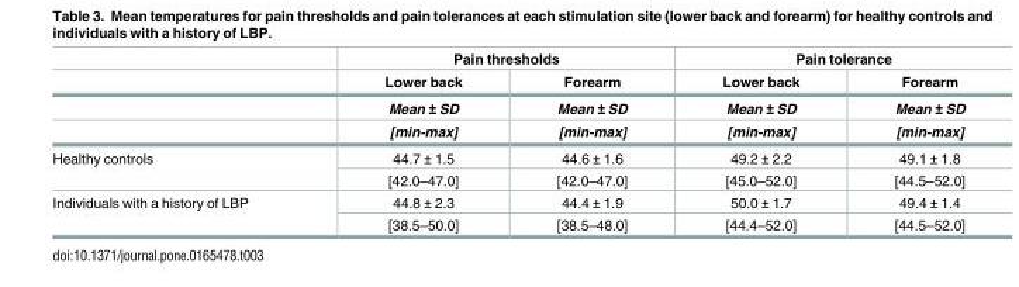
<table><thead><tr><td rowspan="4"></td><td colspan="2">Pain thresholds</td><td colspan="2">Pain tolerance</td></tr><tr><td rowspan="3">Lower back Mean ± SD [min-max]</td><td rowspan="3">Forearm Mean ± SD [min-max]</td><td rowspan="3">Lower back Mean ± SD [min-max]</td><td rowspan="3">Forearm Mean ± SD [min-max]</td></tr><tr></tr><tr></tr></thead><tbody><tr><td rowspan="2">Healthy controls</td><td>44.7 ± 1.5</td><td>44.6 ± 1.6</td><td>49.2 ± 2.2</td><td>49.1 ± 1.8</td></tr><tr><td>[42.0–47.0]</td><td>[42.0–47.0]</td><td>[45.0–52.0]</td><td>[44.5–52.0]</td></tr><tr><td rowspan="2">Individuals with a history of LBP</td><td>44.8 ± 2.3</td><td>44.4 ± 1.9</td><td>50.0 ± 1.7</td><td>49.4 ± 1.4</td></tr><tr><td>[38.5–50.0]</td><td>[38.5–48.0]</td><td>[44.4–52.0]</td><td>[44.5–52.0]</td></tr></tbody></table>